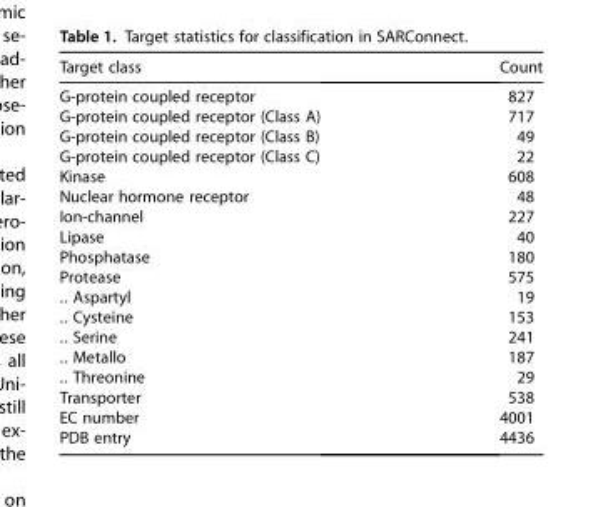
<table><thead><tr><td>Target class</td><td>Count</td></tr></thead><tbody><tr><td>G-protein coupled receptor</td><td>827</td></tr><tr><td>G-protein coupled receptor (Class A)</td><td>717</td></tr><tr><td>G-protein coupled receptor (Class B)</td><td>49</td></tr><tr><td>G-protein coupled receptor (Class C)</td><td>22</td></tr><tr><td>Kinase</td><td>608</td></tr><tr><td>Nuclear hormone receptor</td><td>48</td></tr><tr><td>Ion-channel</td><td>227</td></tr><tr><td>Lipase</td><td>40</td></tr><tr><td>Phosphatase</td><td>180</td></tr><tr><td>Protease</td><td>575</td></tr><tr><td>.. Aspartyl</td><td>19</td></tr><tr><td>.. Cysteine</td><td>153</td></tr><tr><td>.. Serine</td><td>241</td></tr><tr><td>.. Metallo</td><td>187</td></tr><tr><td>.. Threonine</td><td>29</td></tr><tr><td>Transporter</td><td>538</td></tr><tr><td>EC number</td><td>4001</td></tr><tr><td>PDB entry</td><td>4436</td></tr></tbody></table>